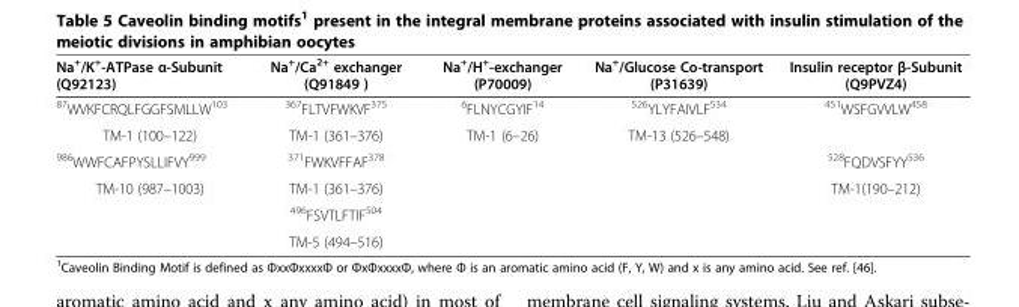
<table><thead><tr><td>Na<sup>+</sup>/K<sup>+</sup>-ATPase α-Subunit (Q92123)</td><td>Na<sup>+</sup>/Ca<sup>2+</sup> exchanger (Q91849 )</td><td>Na<sup>+</sup>/H<sup>+</sup>-exchanger (P70009)</td><td>Na<sup>+</sup>/Glucose Co-transport (P31639)</td><td>Insulin receptor β-Subunit (Q9PVZ4)</td></tr></thead><tbody><tr><td><sup>87</sup>WVKFCRQLFGGFSMLLW<sup>103</sup></td><td><sup>367</sup>FLTVFWKVF<sup>375</sup></td><td><sup>6</sup>FLNYCGYIF<sup>14</sup></td><td><sup>526</sup>YLYFAIVLF<sup>534</sup></td><td><sup>451</sup>WSFGVVLW<sup>458</sup></td></tr><tr><td>TM-1 (100–122)</td><td>TM-1 (361–376)</td><td>TM-1 (6–26)</td><td>TM-13 (526–548)</td><td></td></tr><tr><td><sup>986</sup>WWFCAFPYSLLIFVY<sup>999</sup></td><td><sup>371</sup>FWKVFFAF<sup>378</sup></td><td></td><td></td><td><sup>528</sup>FQDVSFYY<sup>536</sup></td></tr><tr><td rowspan="3">TM-10 (987–1003)</td><td>TM-1 (361–376)</td><td></td><td></td><td>TM-1(190–212)</td></tr><tr><td><sup>496</sup>FSVTLFTIF<sup>504</sup></td><td></td><td></td><td></td></tr><tr><td>TM-5 (494–516)</td><td></td><td></td><td></td></tr></tbody></table>